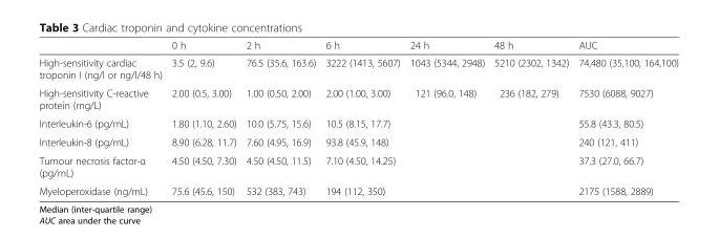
<table><thead><tr><td></td><td>0 h</td><td>2 h</td><td>6 h</td><td>24 h</td><td>48 h</td><td>AUC</td></tr></thead><tbody><tr><td>High-sensitivity cardiac troponin I (ng/l or ng/l/48 h)</td><td>3.5 (2, 9.6)</td><td>76.5 (35.6, 163.6)</td><td>3222 (1413, 5607)</td><td>1043 (5344, 2948)</td><td>5210 (2302, 1342)</td><td>74,480 (35,100, 164,100)</td></tr><tr><td>High-sensitivity C-reactive protein (mg/L)</td><td>2.00 (0.5, 3.00)</td><td>1.00 (0.50, 2.00)</td><td>2.00 (1.00, 3.00)</td><td>121 (96.0, 148)</td><td>236 (182, 279)</td><td>7530 (6088, 9027)</td></tr><tr><td>Interleukin-6 (pg/mL)</td><td>1.80 (1.10, 2.60)</td><td>10.0 (5.75, 15.6)</td><td>10.5 (8.15, 17.7)</td><td></td><td></td><td>55.8 (43.3, 80.5)</td></tr><tr><td>Interleukin-8 (pg/mL)</td><td>8.90 (6.28, 11.7)</td><td>7.60 (4.95, 16.9)</td><td>93.8 (45.9, 148)</td><td></td><td></td><td>240 (121, 411)</td></tr><tr><td>Tumour necrosis factor-α (pg/mL)</td><td>4.50 (4.50, 7.30)</td><td>4.50 (4.50, 11.5)</td><td>7.10 (4.50, 14.25)</td><td></td><td></td><td>37.3 (27.0, 66.7)</td></tr><tr><td>Myeloperoxidase (ng/mL)</td><td>75.6 (45.6, 150)</td><td>532 (383, 743)</td><td>194 (112, 350)</td><td></td><td></td><td>2175 (1588, 2889)</td></tr></tbody></table>